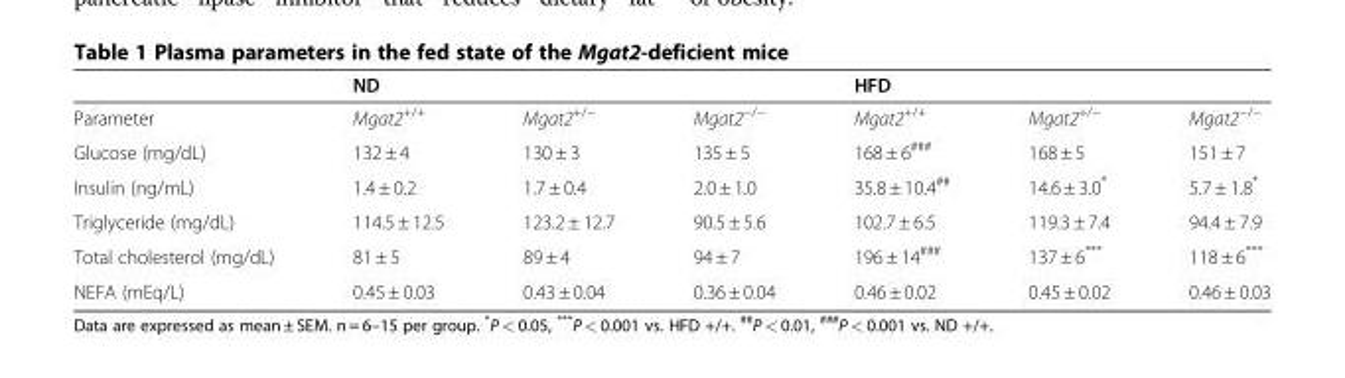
<table><thead><tr><td rowspan="2">Parameter</td><td colspan="3">ND</td><td colspan="3">HFD</td></tr><tr><td>Mgat2<sup>+/+</sup></td><td>Mgat2<sup>+/−</sup></td><td>Mgat2<sup>−/−</sup></td><td>Mgat2<sup>+/+</sup></td><td>Mgat2<sup>+/−</sup></td><td>Mgat2<sup>−/−</sup></td></tr></thead><tbody><tr><td>Glucose (mg/dL)</td><td>132 ± 4</td><td>130 ± 3</td><td>135 ± 5</td><td>168 ± 6<sup>###</sup></td><td>168 ± 5</td><td>151 ± 7</td></tr><tr><td>Insulin (ng/mL)</td><td>1.4 ± 0.2</td><td>1.7 ± 0.4</td><td>2.0 ± 1.0</td><td>35.8 ± 10.4<sup>##</sup></td><td>14.6 ± 3.0*</td><td>5.7 ± 1.8*</td></tr><tr><td>Triglyceride (mg/dL)</td><td>114.5 ± 12.5</td><td>123.2 ± 12.7</td><td>90.5 ± 5.6</td><td>102.7 ± 6.5</td><td>119.3 ± 7.4</td><td>94.4 ± 7.9</td></tr><tr><td>Total cholesterol (mg/dL)</td><td>81 ± 5</td><td>89 ± 4</td><td>94 ± 7</td><td>196 ± 14<sup>###</sup></td><td>137 ± 6***</td><td>118 ± 6***</td></tr><tr><td>NEFA (mEq/L)</td><td>0.45 ± 0.03</td><td>0.43 ± 0.04</td><td>0.36 ± 0.04</td><td>0.46 ± 0.02</td><td>0.45 ± 0.02</td><td>0.46 ± 0.03</td></tr></tbody></table>